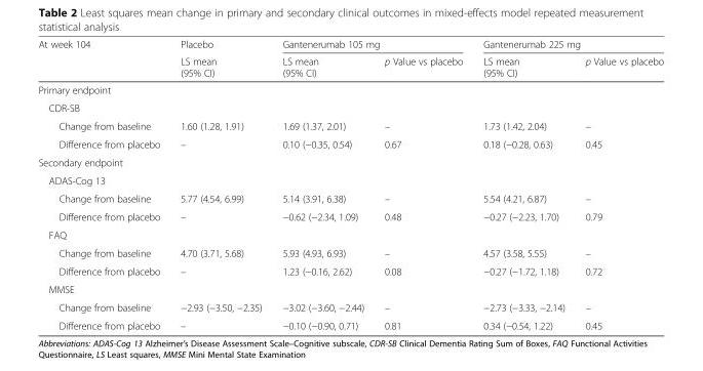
<table><thead><tr><td rowspan="2">At week 104</td><td rowspan="2">Placebo LS mean (95% CI)</td><td colspan="2">Gantenerumab 105 mg</td><td colspan="2">Gantenerumab 225 mg</td></tr><tr><td>LS mean (95% CI)</td><td>p Value vs placebo</td><td>LS mean (95% CI)</td><td>p Value vs placebo</td></tr></thead><tbody><tr><td colspan="6">Primary endpoint</td></tr><tr><td colspan="6">CDR-SB</td></tr><tr><td>Change from baseline</td><td>1.60 (1.28, 1.91)</td><td>1.69 (1.37, 2.01)</td><td>–</td><td>1.73 (1.42, 2.04)</td><td>–</td></tr><tr><td>Difference from placebo</td><td>–</td><td>0.10 (−0.35, 0.54)</td><td>0.67</td><td>0.18 (−0.28, 0.63)</td><td>0.45</td></tr><tr><td colspan="6">Secondary endpoint</td></tr><tr><td colspan="6">ADAS-Cog 13</td></tr><tr><td>Change from baseline</td><td>5.77 (4.54, 6.99)</td><td>5.14 (3.91, 6.38)</td><td>–</td><td>5.54 (4.21, 6.87)</td><td>–</td></tr><tr><td>Difference from placebo</td><td>–</td><td>−0.62 (−2.34, 1.09)</td><td>0.48</td><td>−0.27 (−2.23, 1.70)</td><td>0.79</td></tr><tr><td colspan="6">FAQ</td></tr><tr><td>Change from baseline</td><td>4.70 (3.71, 5.68)</td><td>5.93 (4.93, 6.93)</td><td>–</td><td>4.57 (3.58, 5.55)</td><td>–</td></tr><tr><td>Difference from placebo</td><td>–</td><td>1.23 (−0.16, 2.62)</td><td>0.08</td><td>−0.27 (−1.72, 1.18)</td><td>0.72</td></tr><tr><td colspan="6">MMSE</td></tr><tr><td>Change from baseline</td><td>−2.93 (−3.50, −2.35)</td><td>−3.02 (−3.60, −2.44)</td><td>–</td><td>−2.73 (−3.33, −2.14)</td><td>–</td></tr><tr><td>Difference from placebo</td><td>–</td><td>−0.10 (−0.90, 0.71)</td><td>0.81</td><td>0.34 (−0.54, 1.22)</td><td>0.45</td></tr></tbody></table>